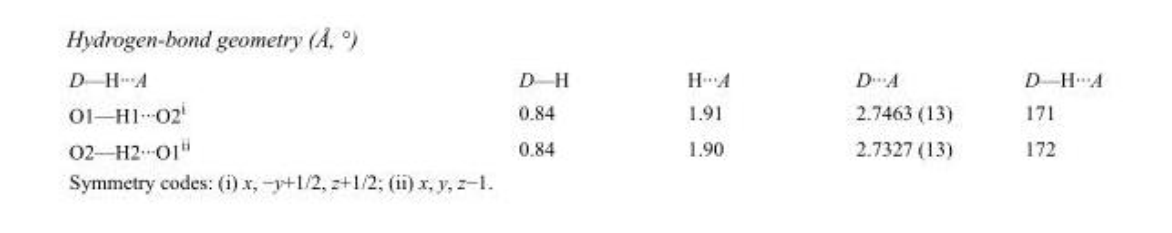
<table><tbody><tr><td>D—H···A</td><td>D—H</td><td>H···A</td><td>D···A</td><td>D—H···A</td></tr><tr><td>O1—H1···O2<sup>i</sup></td><td>0.84</td><td>1.91</td><td>2.7463 (13)</td><td>171</td></tr><tr><td>O2—H2···O1<sup>ii</sup></td><td>0.84</td><td>1.90</td><td>2.7327 (13)</td><td>172</td></tr></tbody></table>